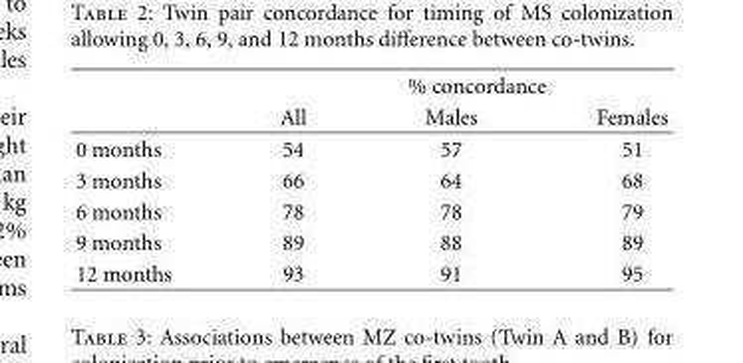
<table><thead><tr><td rowspan="2"></td><td colspan="3">% concordance</td></tr><tr><td>All</td><td>Males</td><td>Females</td></tr></thead><tbody><tr><td>0 months</td><td>54</td><td>57</td><td>51</td></tr><tr><td>3 months</td><td>66</td><td>64</td><td>68</td></tr><tr><td>6 months</td><td>78</td><td>78</td><td>79</td></tr><tr><td>9 months</td><td>89</td><td>88</td><td>89</td></tr><tr><td>12 months</td><td>93</td><td>91</td><td>95</td></tr></tbody></table>